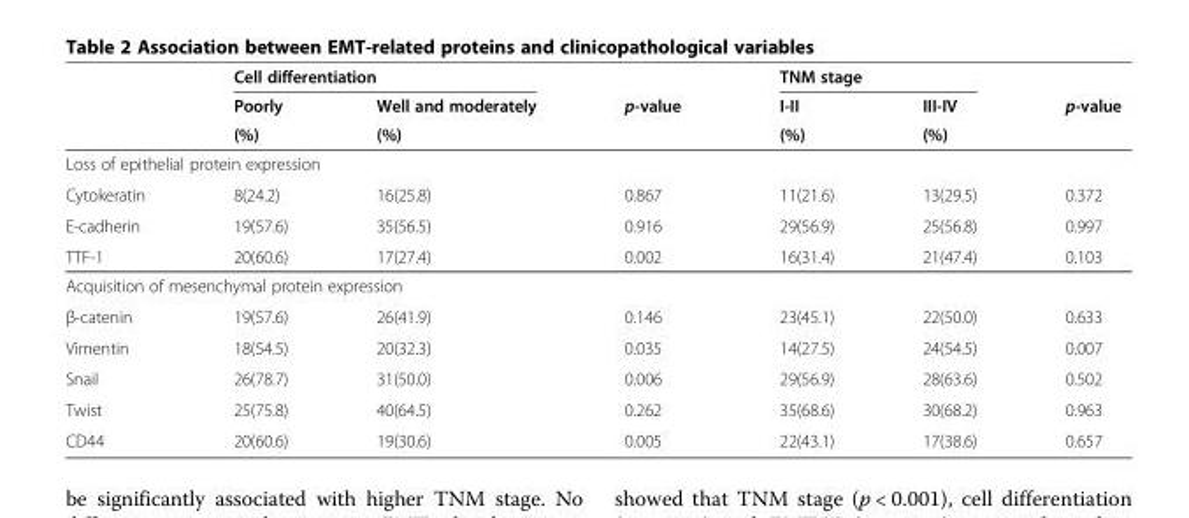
<table><thead><tr><td rowspan="3"></td><td colspan="2">Cell differentiation</td><td rowspan="3">p-value</td><td colspan="2">TNM stage</td><td rowspan="3">p-value</td></tr><tr><td rowspan="2">Poorly (%)</td><td rowspan="2">Well and moderately (%)</td><td rowspan="2">I-II (%)</td><td rowspan="2">III-IV (%)</td></tr><tr></tr></thead><tbody><tr><td colspan="7">Loss of epithelial protein expression</td></tr><tr><td>Cytokeratin</td><td>8(24.2)</td><td>16(25.8)</td><td>0.867</td><td>11(21.6)</td><td>13(29.5)</td><td>0.372</td></tr><tr><td>E-cadherin</td><td>19(57.6)</td><td>35(56.5)</td><td>0.916</td><td>29(56.9)</td><td>25(56.8)</td><td>0.997</td></tr><tr><td>TTF-1</td><td>20(60.6)</td><td>17(27.4)</td><td>0.002</td><td>16(31.4)</td><td>21(47.4)</td><td>0.103</td></tr><tr><td colspan="7">Acquisition of mesenchymal protein expression</td></tr><tr><td>β-catenin</td><td>19(57.6)</td><td>26(41.9)</td><td>0.146</td><td>23(45.1)</td><td>22(50.0)</td><td>0.633</td></tr><tr><td>Vimentin</td><td>18(54.5)</td><td>20(32.3)</td><td>0.035</td><td>14(27.5)</td><td>24(54.5)</td><td>0.007</td></tr><tr><td>Snail</td><td>26(78.7)</td><td>31(50.0)</td><td>0.006</td><td>29(56.9)</td><td>28(63.6)</td><td>0.502</td></tr><tr><td>Twist</td><td>25(75.8)</td><td>40(64.5)</td><td>0.262</td><td>35(68.6)</td><td>30(68.2)</td><td>0.963</td></tr><tr><td>CD44</td><td>20(60.6)</td><td>19(30.6)</td><td>0.005</td><td>22(43.1)</td><td>17(38.6)</td><td>0.657</td></tr></tbody></table>